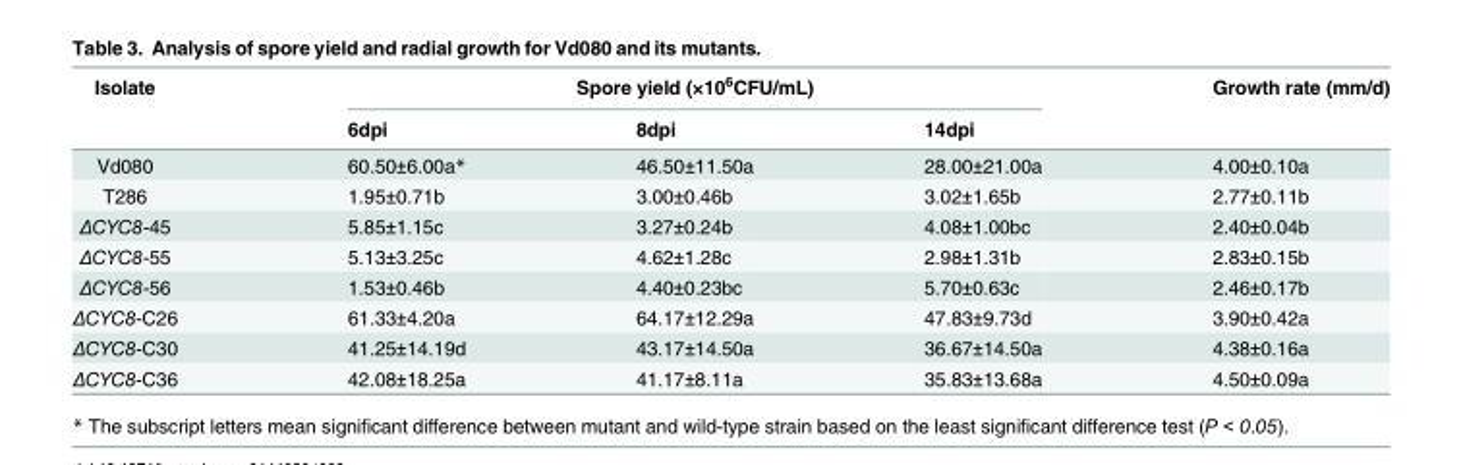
<table><thead><tr><td rowspan="2">Isolate</td><td colspan="3">Spore yield (×10<sup>6</sup>CFU/mL)</td><td rowspan="2">Growth rate (mm/d)</td></tr><tr><td>6dpi</td><td>8dpi</td><td>14dpi</td></tr></thead><tbody><tr><td>Vd080</td><td>60.50±6.00a*</td><td>46.50±11.50a</td><td>28.00±21.00a</td><td>4.00±0.10a</td></tr><tr><td>T286</td><td>1.95±0.71b</td><td>3.00±0.46b</td><td>3.02±1.65b</td><td>2.77±0.11b</td></tr><tr><td>ΔCYC8-45</td><td>5.85±1.15c</td><td>3.27±0.24b</td><td>4.08±1.00bc</td><td>2.40±0.04b</td></tr><tr><td>ΔCYC8-55</td><td>5.13±3.25c</td><td>4.62±1.28c</td><td>2.98±1.31b</td><td>2.83±0.15b</td></tr><tr><td>ΔCYC8-56</td><td>1.53±0.46b</td><td>4.40±0.23bc</td><td>5.70±0.63c</td><td>2.46±0.17b</td></tr><tr><td>ΔCYC8-C26</td><td>61.33±4.20a</td><td>64.17±12.29a</td><td>47.83±9.73d</td><td>3.90±0.42a</td></tr><tr><td>ΔCYC8-C30</td><td>41.25±14.19d</td><td>43.17±14.50a</td><td>36.67±14.50a</td><td>4.38±0.16a</td></tr><tr><td>ΔCYC8-C36</td><td>42.08±18.25a</td><td>41.17±8.11a</td><td>35.83±13.68a</td><td>4.50±0.09a</td></tr></tbody></table>